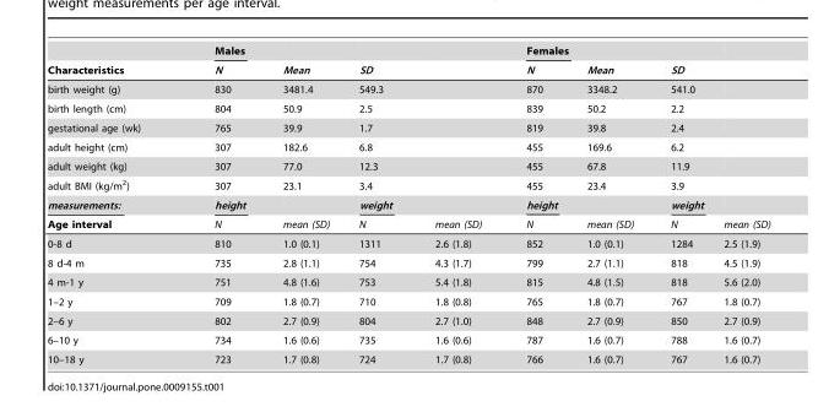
<table><thead><tr><td></td><td>Males</td><td></td><td></td><td></td><td>Females</td><td></td><td></td><td></td></tr></thead><tbody><tr><td>Characteristics</td><td>N</td><td>Mean</td><td>SD</td><td></td><td>N</td><td>Mean</td><td>SD</td><td></td></tr><tr><td>birth weight (g)</td><td>830</td><td>3481.4</td><td>549.3</td><td></td><td>870</td><td>3348.2</td><td>541.0</td><td></td></tr><tr><td>birth length (cm)</td><td>804</td><td>50.9</td><td>2.5</td><td></td><td>839</td><td>50.2</td><td>2.2</td><td></td></tr><tr><td>gestational age (wk)</td><td>765</td><td>39.9</td><td>1.7</td><td></td><td>819</td><td>39.8</td><td>2.4</td><td></td></tr><tr><td>adult height (cm)</td><td>307</td><td>182.6</td><td>6.8</td><td></td><td>455</td><td>169.6</td><td>6.2</td><td></td></tr><tr><td>adult weight (kg)</td><td>307</td><td>77.0</td><td>12.3</td><td></td><td>455</td><td>67.8</td><td>11.9</td><td></td></tr><tr><td>adult BMI (kg/m<sup>2</sup>)</td><td>307</td><td>23.1</td><td>3.4</td><td></td><td>455</td><td>23.4</td><td>3.9</td><td></td></tr><tr><td>measurements:</td><td>height</td><td></td><td>weight</td><td></td><td>height</td><td></td><td>weight</td><td></td></tr><tr><td>Age interval</td><td>N</td><td>mean (SD)</td><td>N</td><td>mean (SD)</td><td>N</td><td>mean (SD)</td><td>N</td><td>mean (SD)</td></tr><tr><td>0-8 d</td><td>810</td><td>1.0 (0.1)</td><td>1311</td><td>2.6 (1.8)</td><td>852</td><td>1.0 (0.1)</td><td>1284</td><td>2.5 (1.9)</td></tr><tr><td>8 d-4 m</td><td>735</td><td>2.8 (1.1)</td><td>754</td><td>4.3 (1.7)</td><td>799</td><td>2.7 (1.1)</td><td>818</td><td>4.5 (1.9)</td></tr><tr><td>4 m-1 y</td><td>751</td><td>4.8 (1.6)</td><td>753</td><td>5.4 (1.8)</td><td>815</td><td>4.8 (1.5)</td><td>818</td><td>5.6 (2.0)</td></tr><tr><td>1–2 y</td><td>709</td><td>1.8 (0.7)</td><td>710</td><td>1.8 (0.8)</td><td>765</td><td>1.8 (0.7)</td><td>767</td><td>1.8 (0.7)</td></tr><tr><td>2–6 y</td><td>802</td><td>2.7 (0.9)</td><td>804</td><td>2.7 (1.0)</td><td>848</td><td>2.7 (0.9)</td><td>850</td><td>2.7 (0.9)</td></tr><tr><td>6–10 y</td><td>734</td><td>1.6 (0.6)</td><td>735</td><td>1.6 (0.6)</td><td>787</td><td>1.6 (0.7)</td><td>788</td><td>1.6 (0.7)</td></tr><tr><td>10–18 y</td><td>723</td><td>1.7 (0.8)</td><td>724</td><td>1.7 (0.8)</td><td>766</td><td>1.6 (0.7)</td><td>767</td><td>1.6 (0.7)</td></tr></tbody></table>